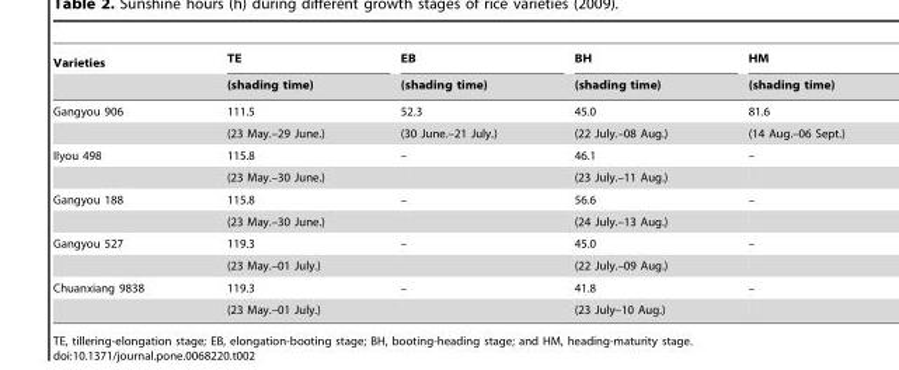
<table><thead><tr><td rowspan="2">Varieties</td><td rowspan="2">TE (shading time)</td><td rowspan="2">EB (shading time)</td><td rowspan="2">BH (shading time)</td><td rowspan="2">HM (shading time)</td></tr><tr></tr></thead><tbody><tr><td rowspan="2">Gangyou 906</td><td>111.5</td><td>52.3</td><td>45.0</td><td>81.6</td></tr><tr><td>(23 May.–29 June.)</td><td>(30 June.–21 July.)</td><td>(22 July.–08 Aug.)</td><td>(14 Aug.–06 Sept.)</td></tr><tr><td rowspan="2">IIyou 498</td><td>115.8</td><td>–</td><td>46.1</td><td>–</td></tr><tr><td>(23 May.–30 June.)</td><td></td><td>(23 July.–11 Aug.)</td><td></td></tr><tr><td rowspan="2">Gangyou 188</td><td>115.8</td><td>–</td><td>56.6</td><td>–</td></tr><tr><td>(23 May.–30 June.)</td><td></td><td>(24 July.–13 Aug.)</td><td></td></tr><tr><td rowspan="2">Gangyou 527</td><td>119.3</td><td>–</td><td>45.0</td><td>–</td></tr><tr><td>(23 May.–01 July.)</td><td></td><td>(22 July.–09 Aug.)</td><td></td></tr><tr><td rowspan="2">Chuanxiang 9838</td><td>119.3</td><td>–</td><td>41.8</td><td>–</td></tr><tr><td>(23 May.–01 July.)</td><td></td><td>(23 July–10 Aug.)</td><td></td></tr></tbody></table>